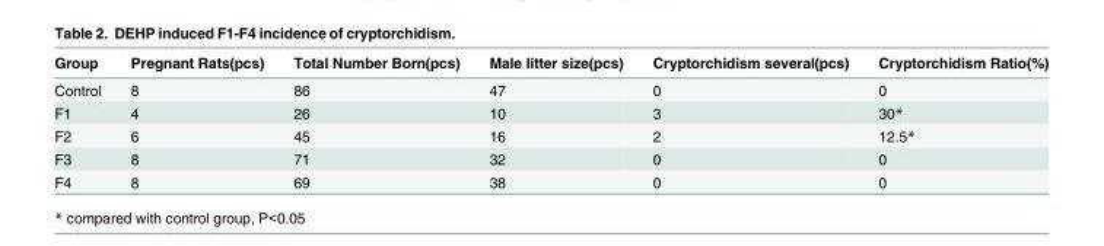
<table><thead><tr><td>Group</td><td>Pregnant Rats(pcs)</td><td>Total Number Born(pcs)</td><td>Male litter size(pcs)</td><td>Cryptorchidism several(pcs)</td><td>Cryptorchidism Ratio(%)</td></tr></thead><tbody><tr><td>Control</td><td>8</td><td>86</td><td>47</td><td>0</td><td>0</td></tr><tr><td>F1</td><td>4</td><td>26</td><td>10</td><td>3</td><td>30*</td></tr><tr><td>F2</td><td>6</td><td>45</td><td>16</td><td>2</td><td>12.5*</td></tr><tr><td>F3</td><td>8</td><td>71</td><td>32</td><td>0</td><td>0</td></tr><tr><td>F4</td><td>8</td><td>69</td><td>38</td><td>0</td><td>0</td></tr></tbody></table>